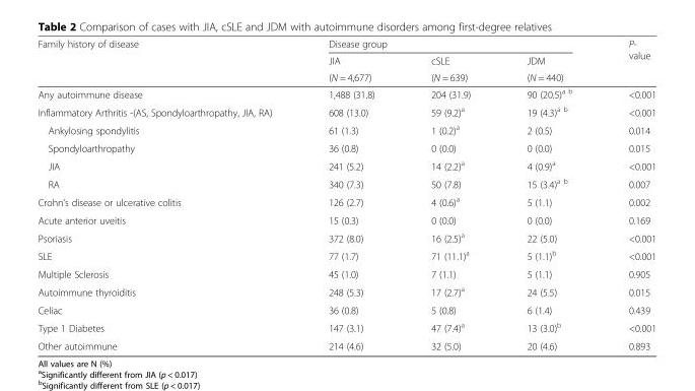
<table><thead><tr><td rowspan="3">Family history of disease</td><td colspan="3">Disease group</td><td rowspan="3">P- value</td></tr><tr><td rowspan="2">JIA (N = 4,677)</td><td rowspan="2">cSLE (N = 639)</td><td rowspan="2">JDM (N = 440)</td></tr><tr></tr></thead><tbody><tr><td>Any autoimmune disease</td><td>1,488 (31.8)</td><td>204 (31.9)</td><td>90 (20.5)<sup>a b</sup></td><td>&lt;0.001</td></tr><tr><td>Inflammatory Arthritis -(AS, Spondyloarthropathy, JIA, RA)</td><td>608 (13.0)</td><td>59 (9.2)<sup>a</sup></td><td>19 (4.3)<sup>a b</sup></td><td>&lt;0.001</td></tr><tr><td>Ankylosing spondylitis</td><td>61 (1.3)</td><td>1 (0.2)<sup>a</sup></td><td>2 (0.5)</td><td>0.014</td></tr><tr><td>Spondyloarthropathy</td><td>36 (0.8)</td><td>0 (0.0)</td><td>0 (0.0)</td><td>0.015</td></tr><tr><td>JIA</td><td>241 (5.2)</td><td>14 (2.2)<sup>a</sup></td><td>4 (0.9)<sup>a</sup></td><td>&lt;0.001</td></tr><tr><td>RA</td><td>340 (7.3)</td><td>50 (7.8)</td><td>15 (3.4)<sup>a b</sup></td><td>0.007</td></tr><tr><td>Crohn’s disease or ulcerative colitis</td><td>126 (2.7)</td><td>4 (0.6)<sup>a</sup></td><td>5 (1.1)</td><td>0.002</td></tr><tr><td>Acute anterior uveitis</td><td>15 (0.3)</td><td>0 (0.0)</td><td>0 (0.0)</td><td>0.169</td></tr><tr><td>Psoriasis</td><td>372 (8.0)</td><td>16 (2.5)<sup>a</sup></td><td>22 (5.0)</td><td>&lt;0.001</td></tr><tr><td>SLE</td><td>77 (1.7)</td><td>71 (11.1)<sup>a</sup></td><td>5 (1.1)<sup>b</sup></td><td>&lt;0.001</td></tr><tr><td>Multiple Sclerosis</td><td>45 (1.0)</td><td>7 (1.1)</td><td>5 (1.1)</td><td>0.905</td></tr><tr><td>Autoimmune thyroiditis</td><td>248 (5.3)</td><td>17 (2.7)<sup>a</sup></td><td>24 (5.5)</td><td>0.015</td></tr><tr><td>Celiac</td><td>36 (0.8)</td><td>5 (0.8)</td><td>6 (1.4)</td><td>0.439</td></tr><tr><td>Type 1 Diabetes</td><td>147 (3.1)</td><td>47 (7.4)<sup>a</sup></td><td>13 (3.0)<sup>b</sup></td><td>&lt;0.001</td></tr><tr><td>Other autoimmune</td><td>214 (4.6)</td><td>32 (5.0)</td><td>20 (4.6)</td><td>0.893</td></tr></tbody></table>